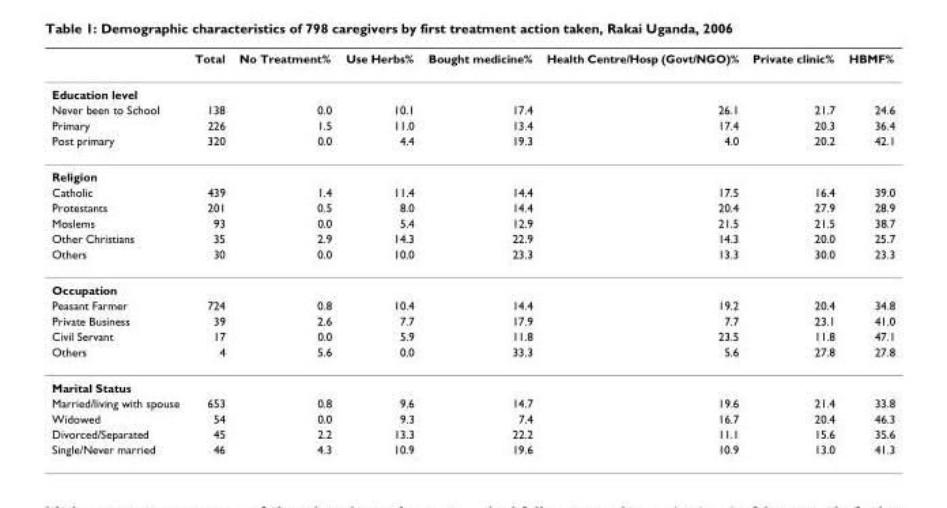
<table><thead><tr><td></td><td>Total</td><td>No Treatment%</td><td>Use Herbs%</td><td>Bought medicine%</td><td>Health Centre/Hosp (Govt/NGO)%</td><td>Private clinic%</td><td>HBMF%</td></tr></thead><tbody><tr><td colspan="8">Education level</td></tr><tr><td>Never been to School</td><td>138</td><td>0.0</td><td>10.1</td><td>17.4</td><td>26.1</td><td>21.7</td><td>24.6</td></tr><tr><td>Primary</td><td>226</td><td>1.5</td><td>11.0</td><td>13.4</td><td>17.4</td><td>20.3</td><td>36.4</td></tr><tr><td>Post primary</td><td>320</td><td>0.0</td><td>4.4</td><td>19.3</td><td>4.0</td><td>20.2</td><td>42.1</td></tr><tr><td colspan="8">Religion</td></tr><tr><td>Catholic</td><td>439</td><td>1.4</td><td>11.4</td><td>14.4</td><td>17.5</td><td>16.4</td><td>39.0</td></tr><tr><td>Protestants</td><td>201</td><td>0.5</td><td>8.0</td><td>14.4</td><td>20.4</td><td>27.9</td><td>28.9</td></tr><tr><td>Moslems</td><td>93</td><td>0.0</td><td>5.4</td><td>12.9</td><td>21.5</td><td>21.5</td><td>38.7</td></tr><tr><td>Other Christians</td><td>35</td><td>2.9</td><td>14.3</td><td>22.9</td><td>14.3</td><td>20.0</td><td>25.7</td></tr><tr><td>Others</td><td>30</td><td>0.0</td><td>10.0</td><td>23.3</td><td>13.3</td><td>30.0</td><td>23.3</td></tr><tr><td colspan="8">Occupation</td></tr><tr><td>Peasant Farmer</td><td>724</td><td>0.8</td><td>10.4</td><td>14.4</td><td>19.2</td><td>20.4</td><td>34.8</td></tr><tr><td>Private Business</td><td>39</td><td>2.6</td><td>7.7</td><td>17.9</td><td>7.7</td><td>23.1</td><td>41.0</td></tr><tr><td>Civil Servant</td><td>17</td><td>0.0</td><td>5.9</td><td>11.8</td><td>23.5</td><td>11.8</td><td>47.1</td></tr><tr><td>Others</td><td>4</td><td>5.6</td><td>0.0</td><td>33.3</td><td>5.6</td><td>27.8</td><td>27.8</td></tr><tr><td colspan="8">Marital Status</td></tr><tr><td>Married/living with spouse</td><td>653</td><td>0.8</td><td>9.6</td><td>14.7</td><td>19.6</td><td>21.4</td><td>33.8</td></tr><tr><td>Widowed</td><td>54</td><td>0.0</td><td>9.3</td><td>7.4</td><td>16.7</td><td>20.4</td><td>46.3</td></tr><tr><td>Divorced/Separated</td><td>45</td><td>2.2</td><td>13.3</td><td>22.2</td><td>11.1</td><td>15.6</td><td>35.6</td></tr><tr><td>Single/Never married</td><td>46</td><td>4.3</td><td>10.9</td><td>19.6</td><td>10.9</td><td>13.0</td><td>41.3</td></tr></tbody></table>